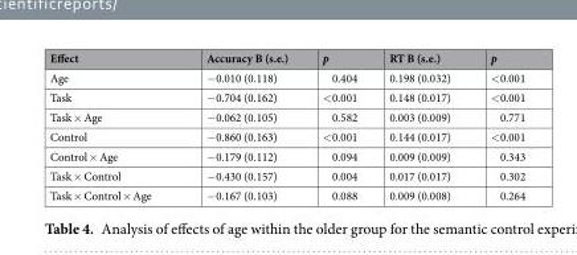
<table><thead><tr><td>Effect</td><td>Accuracy B (s.e.)</td><td>p</td><td>RT B (s.e.)</td><td>p</td></tr></thead><tbody><tr><td>Age</td><td>−0.010 (0.118)</td><td>0.404</td><td>0.198 (0.032)</td><td>&lt;0.001</td></tr><tr><td>Task</td><td>−0.704 (0.162)</td><td>&lt;0.001</td><td>0.148 (0.017)</td><td>&lt;0.001</td></tr><tr><td>Task × Age</td><td>−0.062 (0.105)</td><td>0.582</td><td>0.003 (0.009)</td><td>0.771</td></tr><tr><td>Control</td><td>−0.860 (0.163)</td><td>&lt;0.001</td><td>0.144 (0.017)</td><td>&lt;0.001</td></tr><tr><td>Control × Age</td><td>−0.179 (0.112)</td><td>0.094</td><td>0.009 (0.009)</td><td>0.343</td></tr><tr><td>Task × Control</td><td>−0.430 (0.157)</td><td>0.004</td><td>0.017 (0.017)</td><td>0.302</td></tr><tr><td>Task × Control × Age</td><td>−0.167 (0.103)</td><td>0.088</td><td>0.009 (0.008)</td><td>0.264</td></tr></tbody></table>